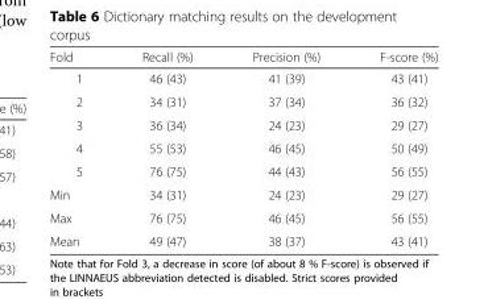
<table><thead><tr><td>Fold</td><td>Recall (%)</td><td>Precision (%)</td><td>F-score (%)</td></tr></thead><tbody><tr><td>1</td><td>46 (43)</td><td>41 (39)</td><td>43 (41)</td></tr><tr><td>2</td><td>34 (31)</td><td>37 (34)</td><td>36 (32)</td></tr><tr><td>3</td><td>36 (34)</td><td>24 (23)</td><td>29 (27)</td></tr><tr><td>4</td><td>55 (53)</td><td>46 (45)</td><td>50 (49)</td></tr><tr><td>5</td><td>76 (75)</td><td>44 (43)</td><td>56 (55)</td></tr><tr><td>Min</td><td>34 (31)</td><td>24 (23)</td><td>29 (27)</td></tr><tr><td>Max</td><td>76 (75)</td><td>46 (45)</td><td>56 (55)</td></tr><tr><td>Mean</td><td>49 (47)</td><td>38 (37)</td><td>43 (41)</td></tr></tbody></table>